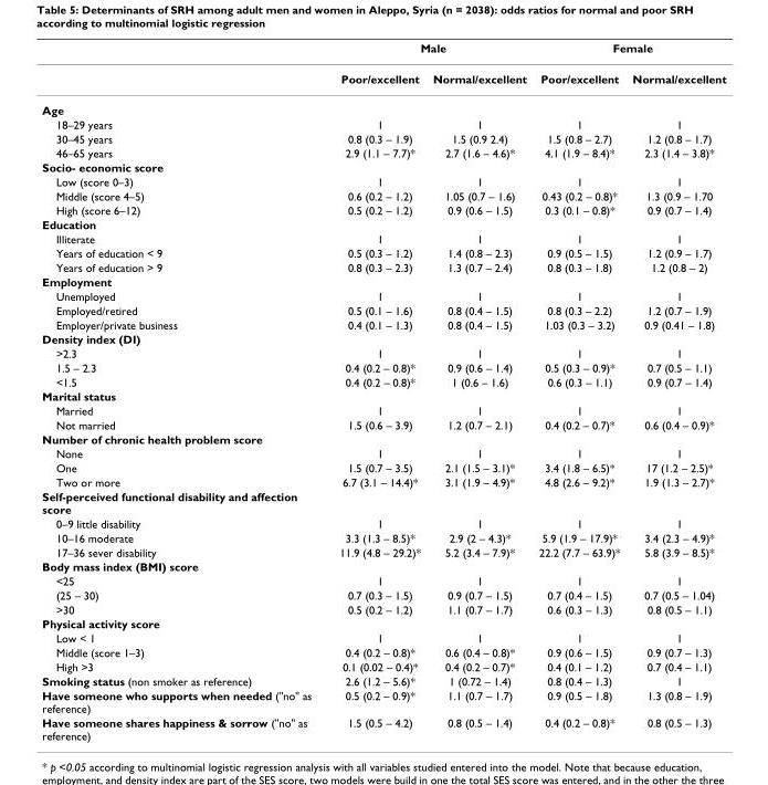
<table><thead><tr><td rowspan="2"></td><td colspan="2">Male</td><td colspan="2">Female</td></tr><tr><td>Poor/excellent</td><td>Normal/excellent</td><td>Poor/excellent</td><td>Normal/excellent</td></tr></thead><tbody><tr><td colspan="5">Age</td></tr><tr><td>18–29 years</td><td>1</td><td>1</td><td>1</td><td>1</td></tr><tr><td>30–45 years</td><td>0.8 (0.3 – 1.9)</td><td>1.5 (0.9 2.4)</td><td>1.5 (0.8 – 2.7)</td><td>1.2 (0.8 – 1.7)</td></tr><tr><td>46–65 years</td><td>2.9 (1.1 – 7.7)*</td><td>2.7 (1.6 – 4.6)*</td><td>4.1 (1.9 – 8.4)*</td><td>2.3 (1.4 – 3.8)*</td></tr><tr><td colspan="5">Socio- economic score</td></tr><tr><td>Low (score 0–3)</td><td>1</td><td>1</td><td>1</td><td>1</td></tr><tr><td>Middle (score 4–5)</td><td>0.6 (0.2 – 1.2)</td><td>1.05 (0.7 – 1.6)</td><td>0.43 (0.2 – 0.8)*</td><td>1.3 (0.9 – 1.70</td></tr><tr><td>High (score 6–12)</td><td>0.5 (0.2 – 1.2)</td><td>0.9 (0.6 – 1.5)</td><td>0.3 (0.1 – 0.8)*</td><td>0.9 (0.7 – 1.4)</td></tr><tr><td colspan="5">Education</td></tr><tr><td>Illiterate</td><td>1</td><td>1</td><td>1</td><td>1</td></tr><tr><td>Years of education &lt; 9</td><td>0.5 (0.3 – 1.2)</td><td>1.4 (0.8 – 2.3)</td><td>0.9 (0.5 – 1.5)</td><td>1.2 (0.9 – 1.7)</td></tr><tr><td>Years of education &gt; 9</td><td>0.8 (0.3 – 2.3)</td><td>1.3 (0.7 – 2.4)</td><td>0.8 (0.3 – 1.8)</td><td>1.2 (0.8 – 2)</td></tr><tr><td colspan="5">Employment</td></tr><tr><td>Unemployed</td><td>1</td><td>1</td><td>1</td><td>1</td></tr><tr><td>Employed/retired</td><td>0.5 (0.1 – 1.6)</td><td>0.8 (0.4 – 1.5)</td><td>0.8 (0.3 – 2.2)</td><td>1.2 (0.7 – 1.9)</td></tr><tr><td>Employer/private business</td><td>0.4 (0.1 – 1.3)</td><td>0.8 (0.4 – 1.5)</td><td>1.03 (0.3 – 3.2)</td><td>0.9 (0.41 – 1.8)</td></tr><tr><td colspan="5">Density index (DI)</td></tr><tr><td>&gt;2.3</td><td>1</td><td>1</td><td>1</td><td>1</td></tr><tr><td>1.5 – 2.3</td><td>0.4 (0.2 – 0.8)*</td><td>0.9 (0.6 – 1.4)</td><td>0.5 (0.3 – 0.9)*</td><td>0.7 (0.5 – 1.1)</td></tr><tr><td>&lt;1.5</td><td>0.4 (0.2 – 0.8)*</td><td>1 (0.6 – 1.6)</td><td>0.6 (0.3 – 1.1)</td><td>0.9 (0.7 – 1.4)</td></tr><tr><td colspan="5">Marital status</td></tr><tr><td>Married</td><td>1</td><td>1</td><td>1</td><td>1</td></tr><tr><td>Not married</td><td>1.5 (0.6 – 3.9)</td><td>1.2 (0.7 – 2.1)</td><td>0.4 (0.2 – 0.7)*</td><td>0.6 (0.4 – 0.9)*</td></tr><tr><td colspan="5">Number of chronic health problem score</td></tr><tr><td>None</td><td>1</td><td>1</td><td>1</td><td>1</td></tr><tr><td>One</td><td>1.5 (0.7 – 3.5)</td><td>2.1 (1.5 – 3.1)*</td><td>3.4 (1.8 – 6.5)*</td><td>17 (1.2 – 2.5)*</td></tr><tr><td>Two or more</td><td>6.7 (3.1 – 14.4)*</td><td>3.1 (1.9 – 4.9)*</td><td>4.8 (2.6 – 9.2)*</td><td>1.9 (1.3 – 2.7)*</td></tr><tr><td colspan="5">Self-perceived functional disability and affection score</td></tr><tr><td>0–9 little disability</td><td>1</td><td>1</td><td>1</td><td>1</td></tr><tr><td>10–16 moderate</td><td>3.3 (1.3 – 8.5)*</td><td>2.9 (2 – 4.3)*</td><td>5.9 (1.9 – 17.9)*</td><td>3.4 (2.3 – 4.9)*</td></tr><tr><td>17–36 sever disability</td><td>11.9 (4.8 – 29.2)*</td><td>5.2 (3.4 – 7.9)*</td><td>22.2 (7.7 – 63.9)*</td><td>5.8 (3.9 – 8.5)*</td></tr><tr><td colspan="5">Body mass index (BMI) score</td></tr><tr><td>&lt;25</td><td>1</td><td>1</td><td>1</td><td>1</td></tr><tr><td>(25 – 30)</td><td>0.7 (0.3 – 1.5)</td><td>0.9 (0.7 – 1.5)</td><td>0.7 (0.4 – 1.5)</td><td>0.7 (0.5 – 1.04)</td></tr><tr><td>&gt;30</td><td>0.5 (0.2 – 1.2)</td><td>1.1 (0.7 – 1.7)</td><td>0.6 (0.3 – 1.3)</td><td>0.8 (0.5 – 1.1)</td></tr><tr><td colspan="5">Physical activity score</td></tr><tr><td>Low &lt; 1</td><td>1</td><td>1</td><td>1</td><td>1</td></tr><tr><td>Middle (score 1–3)</td><td>0.4 (0.2 – 0.8)*</td><td>0.6 (0.4 – 0.8)*</td><td>0.9 (0.6 – 1.5)</td><td>0.9 (0.7 – 1.3)</td></tr><tr><td>High &gt;3</td><td>0.1 (0.02 – 0.4)*</td><td>0.4 (0.2 – 0.7)*</td><td>0.4 (0.1 – 1.2)</td><td>0.7 (0.4 – 1.1)</td></tr><tr><td>Smoking status (non smoker as reference)</td><td>2.6 (1.2 – 5.6)*</td><td>1 (0.72 – 1.4)</td><td>0.8 (0.4 – 1.3)</td><td>1</td></tr><tr><td>Have someone who supports when needed (&quot;no&quot; as reference)</td><td>0.5 (0.2 – 0.9)*</td><td>1.1 (0.7 – 1.7)</td><td>0.9 (0.5 – 1.8)</td><td>1.3 (0.8 – 1.9)</td></tr><tr><td>Have someone shares happiness &amp; sorrow (&quot;no&quot; as reference)</td><td>1.5 (0.5 – 4.2)</td><td>0.8 (0.5 – 1.4)</td><td>0.4 (0.2 – 0.8)*</td><td>0.8 (0.5 – 1.3)</td></tr></tbody></table>